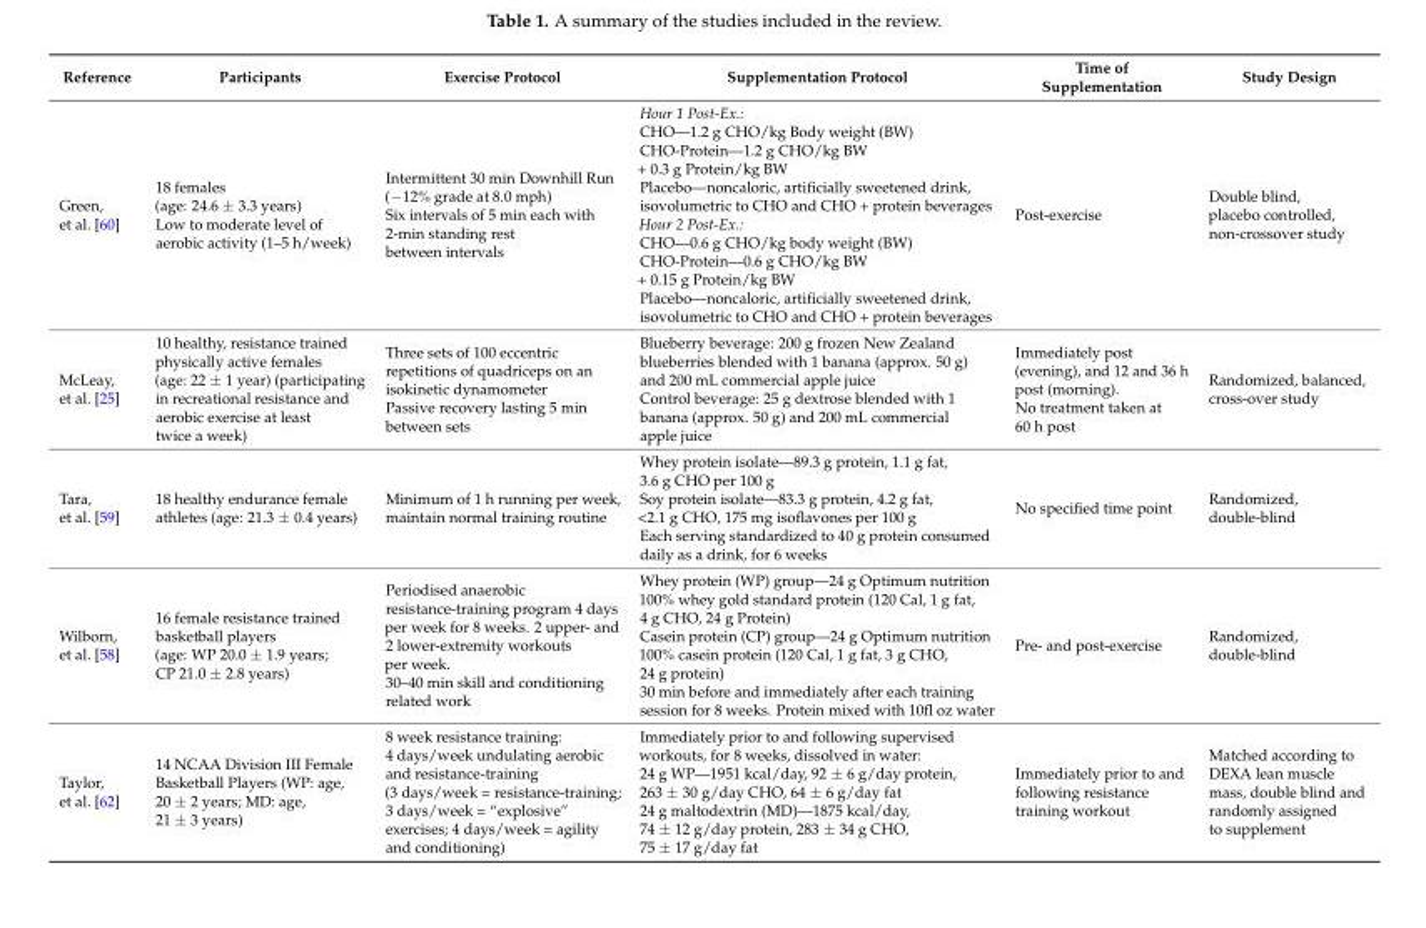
<table><thead><tr><td>Reference</td><td>Participants</td><td>Exercise Protocol</td><td>Supplementation Protocol</td><td>Time of Supplementation</td><td>Study Design</td></tr></thead><tbody><tr><td>Green, et al. [60]</td><td>18 females (age: 24.6 ± 3.3 years) Low to moderate level of aerobic activity (1–5 h/week)</td><td>Intermittent 30 min Downhill Run (−12% grade at 8.0 mph) Six intervals of 5 min each with 2-min standing rest between intervals</td><td>Hour 1 Post-Ex.: CHO—1.2 g CHO/kg Body weight (BW) CHO-Protein—1.2 g CHO/kg BW + 0.3 g Protein/kg BW Placebo—noncaloric, artificially sweetened drink, isovolumetric to CHO and CHO + protein beverages Hour 2 Post-Ex.: CHO—0.6 g CHO/kg body weight (BW) CHO-Protein—0.6 g CHO/kg BW + 0.15 g Protein/kg BW Placebo—noncaloric, artificially sweetened drink, isovolumetric to CHO and CHO + protein beverages</td><td>Post-exercise</td><td>Double blind, placebo controlled, non-crossover study</td></tr><tr><td>McLeay, et al. [25]</td><td>10 healthy, resistance trained physically active females (age: 22 ± 1 year) (participating in recreational resistance and aerobic exercise at least twice a week)</td><td>Three sets of 100 eccentric repetitions of quadriceps on an isokinetic dynamometer Passive recovery lasting 5 min between sets</td><td>Blueberry beverage: 200 g frozen New Zealand blueberries blended with 1 banana (approx. 50 g) and 200 mL commercial apple juice Control beverage: 25 g dextrose blended with 1 banana (approx. 50 g) and 200 mL commercial apple juice</td><td>Immediately post (evening), and 12 and 36 h post (morning). No treatment taken at 60 h post</td><td>Randomized, balanced, cross-over study</td></tr><tr><td>Tara, et al. [59]</td><td>18 healthy endurance female athletes (age: 21.3 ± 0.4 years)</td><td>Minimum of 1 h running per week, maintain normal training routine</td><td>Whey protein isolate—89.3 g protein, 1.1 g fat, 3.6 g CHO per 100 g Soy protein isolate—83.3 g protein, 4.2 g fat, &lt;2.1 g CHO, 175 mg isoflavones per 100 g Each serving standardized to 40 g protein consumed daily as a drink, for 6 weeks</td><td>No specified time point</td><td>Randomized, double-blind</td></tr><tr><td>Wilborn, et al. [58]</td><td>16 female resistance trained basketball players (age: WP 20.0 ± 1.9 years; CP 21.0 ± 2.8 years)</td><td>Periodised anaerobic resistance-training program 4 days per week for 8 weeks. 2 upper- and 2 lower-extremity workouts per week. 30–40 min skill and conditioning related work</td><td>Whey protein (WP) group—24 g Optimum nutrition 100% whey gold standard protein (120 Cal, 1 g fat, 4 g CHO, 24 g Protein) Casein protein (CP) group—24 g Optimum nutrition 100% casein protein (120 Cal, 1 g fat, 3 g CHO, 24 g protein) 30 min before and immediately after each training session for 8 weeks. Protein mixed with 10fl oz water</td><td>Pre- and post-exercise</td><td>Randomized, double-blind</td></tr><tr><td>Taylor, et al. [62]</td><td>14 NCAA Division III Female Basketball Players (WP: age, 20 ± 2 years; MD: age, 21 ± 3 years)</td><td>8 week resistance training: 4 days/week undulating aerobic and resistance-training (3 days/week = resistance-training; 3 days/week = “explosive” exercises; 4 days/week = agility and conditioning)</td><td>Immediately prior to and following supervised workouts, for 8 weeks, dissolved in water: 24 g WP—1951 kcal/day, 92 ± 6 g/day protein, 263 ± 30 g/day CHO, 64 ± 6 g/day fat 24 g maltodextrin (MD)—1875 kcal/day, 74 ± 12 g/day protein, 283 ± 34 g CHO, 75 ± 17 g/day fat</td><td>Immediately prior to and following resistance training workout</td><td>Matched according to DEXA lean muscle mass, double blind and randomly assigned to supplement</td></tr></tbody></table>